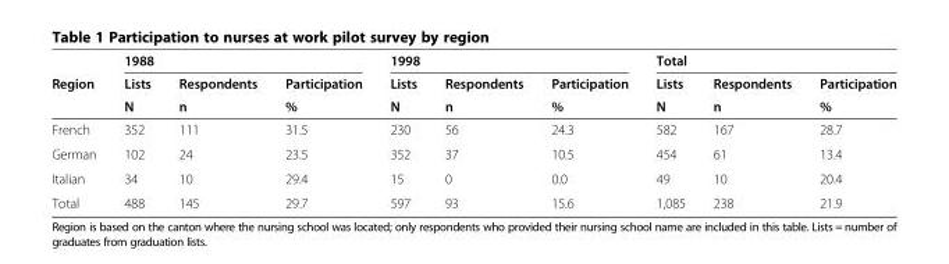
<table><thead><tr><td rowspan="3">Region</td><td colspan="3">1988</td><td colspan="3">1998</td><td colspan="3">Total</td></tr><tr><td rowspan="2">Lists N</td><td rowspan="2">Respondents n</td><td rowspan="2">Participation %</td><td rowspan="2">Lists N</td><td rowspan="2">Respondents n</td><td rowspan="2">Participation %</td><td rowspan="2">Lists N</td><td rowspan="2">Respondents n</td><td rowspan="2">Participation %</td></tr><tr></tr></thead><tbody><tr><td>French</td><td>352</td><td>111</td><td>31.5</td><td>230</td><td>56</td><td>24.3</td><td>582</td><td>167</td><td>28.7</td></tr><tr><td>German</td><td>102</td><td>24</td><td>23.5</td><td>352</td><td>37</td><td>10.5</td><td>454</td><td>61</td><td>13.4</td></tr><tr><td>Italian</td><td>34</td><td>10</td><td>29.4</td><td>15</td><td>0</td><td>0.0</td><td>49</td><td>10</td><td>20.4</td></tr><tr><td>Total</td><td>488</td><td>145</td><td>29.7</td><td>597</td><td>93</td><td>15.6</td><td>1,085</td><td>238</td><td>21.9</td></tr></tbody></table>